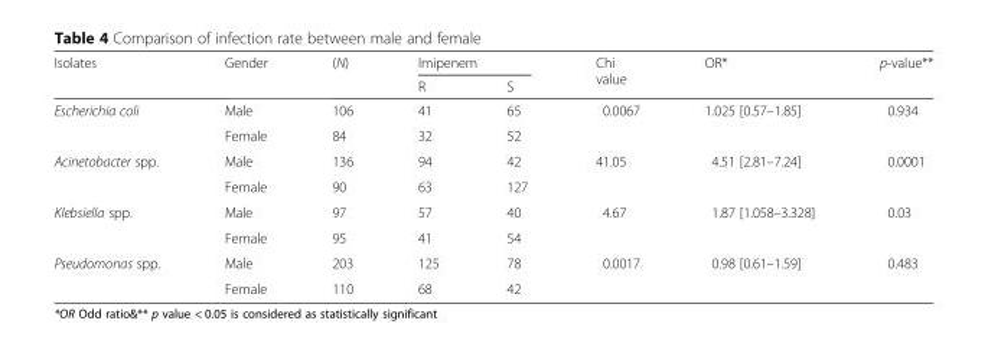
<table><thead><tr><td rowspan="2">Isolates</td><td rowspan="2">Gender</td><td rowspan="2">(N)</td><td colspan="2">Imipenem</td><td rowspan="2">Chi value</td><td rowspan="2">OR*</td><td rowspan="2">p-value**</td></tr><tr><td>R</td><td>S</td></tr></thead><tbody><tr><td rowspan="2">Escherichia coli</td><td>Male</td><td>106</td><td>41</td><td>65</td><td rowspan="2">0.0067</td><td rowspan="2">1.025 [0.57–1.85]</td><td rowspan="2">0.934</td></tr><tr><td>Female</td><td>84</td><td>32</td><td>52</td></tr><tr><td rowspan="2">Acinetobacter spp.</td><td>Male</td><td>136</td><td>94</td><td>42</td><td rowspan="2">41.05</td><td rowspan="2">4.51 [2.81–7.24]</td><td rowspan="2">0.0001</td></tr><tr><td>Female</td><td>90</td><td>63</td><td>127</td></tr><tr><td rowspan="2">Klebsiella spp.</td><td>Male</td><td>97</td><td>57</td><td>40</td><td rowspan="2">4.67</td><td rowspan="2">1.87 [1.058–3.328]</td><td rowspan="2">0.03</td></tr><tr><td>Female</td><td>95</td><td>41</td><td>54</td></tr><tr><td rowspan="2">Pseudomonas spp.</td><td>Male</td><td>203</td><td>125</td><td>78</td><td rowspan="2">0.0017</td><td rowspan="2">0.98 [0.61–1.59]</td><td rowspan="2">0.483</td></tr><tr><td>Female</td><td>110</td><td>68</td><td>42</td></tr></tbody></table>